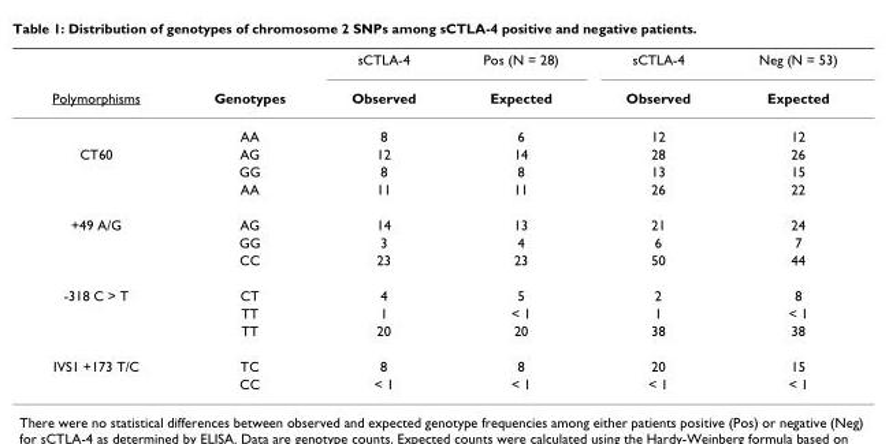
<table><thead><tr><td rowspan="2">Polymorphisms</td><td rowspan="2">Genotypes</td><td rowspan="2">sCTLA-4 Observed</td><td rowspan="2">Pos (N = 28) Expected</td><td rowspan="2">sCTLA-4 Observed</td><td rowspan="2">Neg (N = 53) Expected</td></tr><tr></tr></thead><tbody><tr><td></td><td>AA</td><td>8</td><td>6</td><td>12</td><td>12</td></tr><tr><td rowspan="3">CT60</td><td>AG</td><td>12</td><td>14</td><td>28</td><td>26</td></tr><tr><td>GG</td><td>8</td><td>8</td><td>13</td><td>15</td></tr><tr><td>AA</td><td>11</td><td>11</td><td>26</td><td>22</td></tr><tr><td rowspan="3">+49 A/G</td><td>AG</td><td>14</td><td>13</td><td>21</td><td>24</td></tr><tr><td>GG</td><td>3</td><td>4</td><td>6</td><td>7</td></tr><tr><td>CC</td><td>23</td><td>23</td><td>50</td><td>44</td></tr><tr><td rowspan="3">-318 C &gt; T</td><td>CT</td><td>4</td><td>5</td><td>2</td><td>8</td></tr><tr><td>TT</td><td>1</td><td>&lt; 1</td><td>1</td><td>&lt; 1</td></tr><tr><td>TT</td><td>20</td><td>20</td><td>38</td><td>38</td></tr><tr><td rowspan="2">IVS1 +173 T/C</td><td>TC</td><td>8</td><td>8</td><td>20</td><td>15</td></tr><tr><td>CC</td><td>&lt; 1</td><td>&lt; 1</td><td>&lt; 1</td><td>&lt; 1</td></tr></tbody></table>